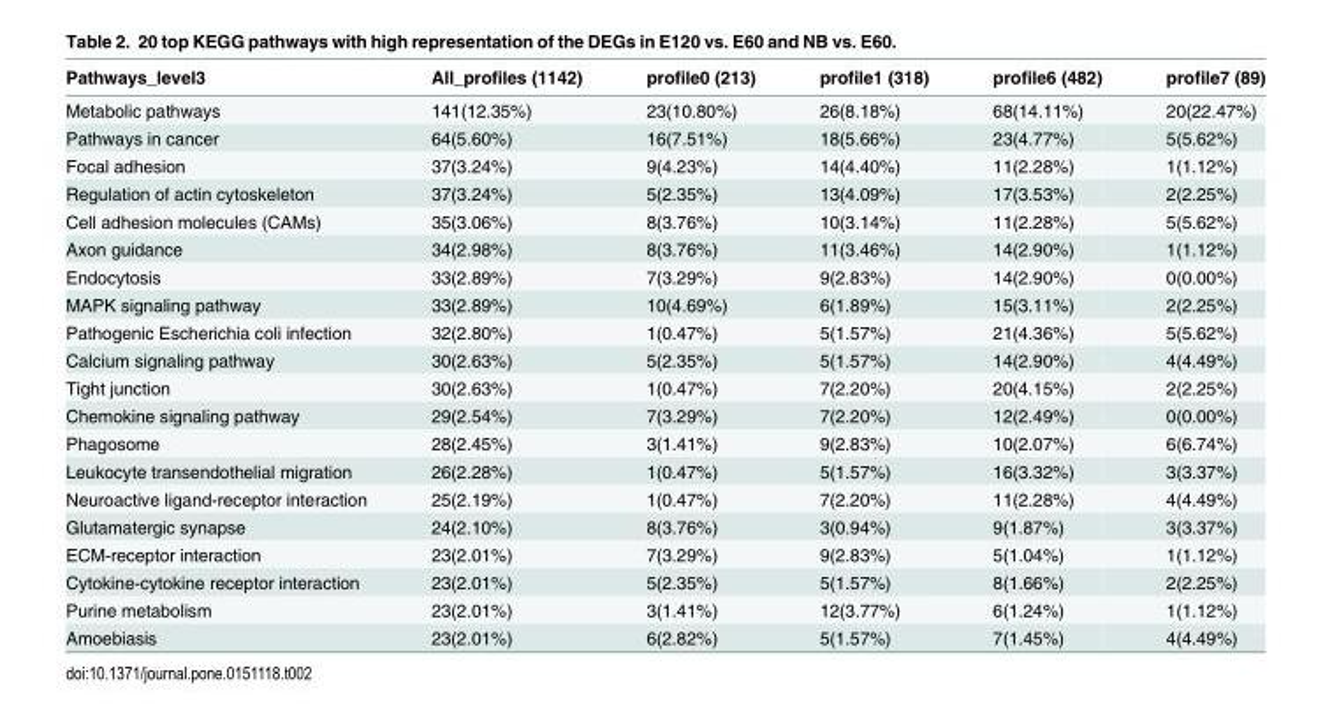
<table><thead><tr><td>Pathways_level3</td><td>All_profiles (1142)</td><td>profile0 (213)</td><td>profile1 (318)</td><td>profile6 (482)</td><td>profile7 (89)</td></tr></thead><tbody><tr><td>Metabolic pathways</td><td>141(12.35%)</td><td>23(10.80%)</td><td>26(8.18%)</td><td>68(14.11%)</td><td>20(22.47%)</td></tr><tr><td>Pathways in cancer</td><td>64(5.60%)</td><td>16(7.51%)</td><td>18(5.66%)</td><td>23(4.77%)</td><td>5(5.62%)</td></tr><tr><td>Focal adhesion</td><td>37(3.24%)</td><td>9(4.23%)</td><td>14(4.40%)</td><td>11(2.28%)</td><td>1(1.12%)</td></tr><tr><td>Regulation of actin cytoskeleton</td><td>37(3.24%)</td><td>5(2.35%)</td><td>13(4.09%)</td><td>17(3.53%)</td><td>2(2.25%)</td></tr><tr><td>Cell adhesion molecules (CAMs)</td><td>35(3.06%)</td><td>8(3.76%)</td><td>10(3.14%)</td><td>11(2.28%)</td><td>5(5.62%)</td></tr><tr><td>Axon guidance</td><td>34(2.98%)</td><td>8(3.76%)</td><td>11(3.46%)</td><td>14(2.90%)</td><td>1(1.12%)</td></tr><tr><td>Endocytosis</td><td>33(2.89%)</td><td>7(3.29%)</td><td>9(2.83%)</td><td>14(2.90%)</td><td>0(0.00%)</td></tr><tr><td>MAPK signaling pathway</td><td>33(2.89%)</td><td>10(4.69%)</td><td>6(1.89%)</td><td>15(3.11%)</td><td>2(2.25%)</td></tr><tr><td>Pathogenic Escherichia coli infection</td><td>32(2.80%)</td><td>1(0.47%)</td><td>5(1.57%)</td><td>21(4.36%)</td><td>5(5.62%)</td></tr><tr><td>Calcium signaling pathway</td><td>30(2.63%)</td><td>5(2.35%)</td><td>5(1.57%)</td><td>14(2.90%)</td><td>4(4.49%)</td></tr><tr><td>Tight junction</td><td>30(2.63%)</td><td>1(0.47%)</td><td>7(2.20%)</td><td>20(4.15%)</td><td>2(2.25%)</td></tr><tr><td>Chemokine signaling pathway</td><td>29(2.54%)</td><td>7(3.29%)</td><td>7(2.20%)</td><td>12(2.49%)</td><td>0(0.00%)</td></tr><tr><td>Phagosome</td><td>28(2.45%)</td><td>3(1.41%)</td><td>9(2.83%)</td><td>10(2.07%)</td><td>6(6.74%)</td></tr><tr><td>Leukocyte transendothelial migration</td><td>26(2.28%)</td><td>1(0.47%)</td><td>5(1.57%)</td><td>16(3.32%)</td><td>3(3.37%)</td></tr><tr><td>Neuroactive ligand-receptor interaction</td><td>25(2.19%)</td><td>1(0.47%)</td><td>7(2.20%)</td><td>11(2.28%)</td><td>4(4.49%)</td></tr><tr><td>Glutamatergic synapse</td><td>24(2.10%)</td><td>8(3.76%)</td><td>3(0.94%)</td><td>9(1.87%)</td><td>3(3.37%)</td></tr><tr><td>ECM-receptor interaction</td><td>23(2.01%)</td><td>7(3.29%)</td><td>9(2.83%)</td><td>5(1.04%)</td><td>1(1.12%)</td></tr><tr><td>Cytokine-cytokine receptor interaction</td><td>23(2.01%)</td><td>5(2.35%)</td><td>5(1.57%)</td><td>8(1.66%)</td><td>2(2.25%)</td></tr><tr><td>Purine metabolism</td><td>23(2.01%)</td><td>3(1.41%)</td><td>12(3.77%)</td><td>6(1.24%)</td><td>1(1.12%)</td></tr><tr><td>Amoebiasis</td><td>23(2.01%)</td><td>6(2.82%)</td><td>5(1.57%)</td><td>7(1.45%)</td><td>4(4.49%)</td></tr></tbody></table>